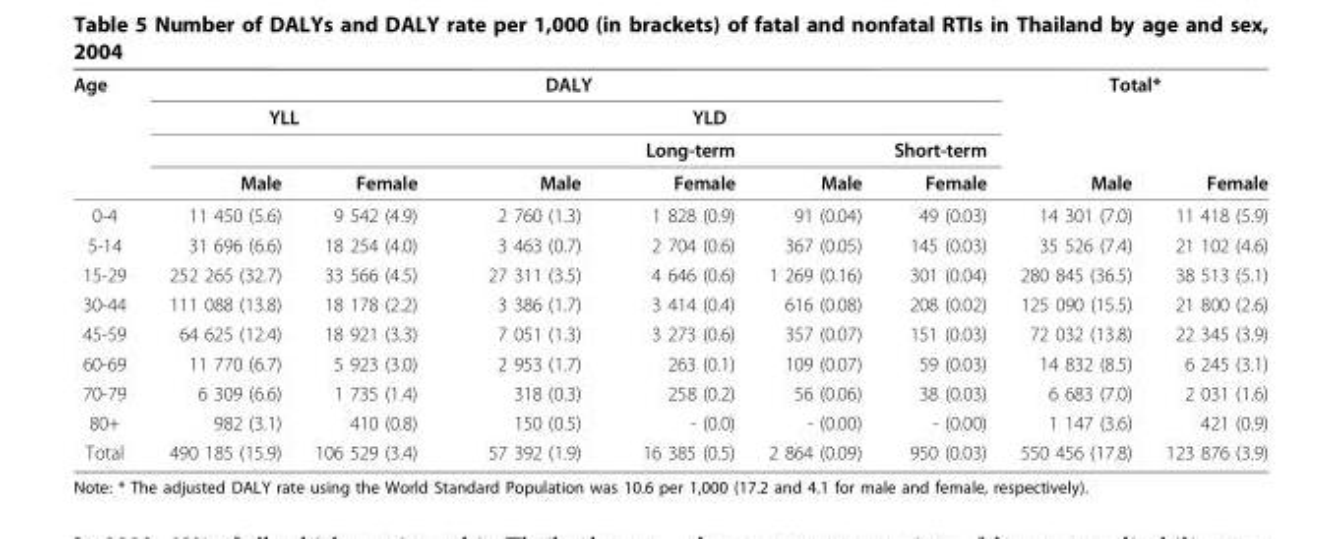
<table><thead><tr><td rowspan="4">Age</td><td colspan="6">DALY</td><td colspan="2">Total*</td></tr><tr><td colspan="2">YLL</td><td colspan="4">YLD</td><td rowspan="3">Male</td><td rowspan="3">Female</td></tr><tr><td rowspan="2">Male</td><td rowspan="2">Female</td><td colspan="2">Long-term</td><td colspan="2">Short-term</td></tr><tr><td>Male</td><td>Female</td><td>Male</td><td>Female</td></tr></thead><tbody><tr><td>0-4</td><td>11 450 (5.6)</td><td>9 542 (4.9)</td><td>2 760 (1.3)</td><td>1 828 (0.9)</td><td>91 (0.04)</td><td>49 (0.03)</td><td>14 301 (7.0)</td><td>11 418 (5.9)</td></tr><tr><td>5-14</td><td>31 696 (6.6)</td><td>18 254 (4.0)</td><td>3 463 (0.7)</td><td>2 704 (0.6)</td><td>367 (0.05)</td><td>145 (0.03)</td><td>35 526 (7.4)</td><td>21 102 (4.6)</td></tr><tr><td>15-29</td><td>252 265 (32.7)</td><td>33 566 (4.5)</td><td>27 311 (3.5)</td><td>4 646 (0.6)</td><td>1 269 (0.16)</td><td>301 (0.04)</td><td>280 845 (36.5)</td><td>38 513 (5.1)</td></tr><tr><td>30-44</td><td>111 088 (13.8)</td><td>18 178 (2.2)</td><td>3 386 (1.7)</td><td>3 414 (0.4)</td><td>616 (0.08)</td><td>208 (0.02)</td><td>125 090 (15.5)</td><td>21 800 (2.6)</td></tr><tr><td>45-59</td><td>64 625 (12.4)</td><td>18 921 (3.3)</td><td>7 051 (1.3)</td><td>3 273 (0.6)</td><td>357 (0.07)</td><td>151 (0.03)</td><td>72 032 (13.8)</td><td>22 345 (3.9)</td></tr><tr><td>60-69</td><td>11 770 (6.7)</td><td>5 923 (3.0)</td><td>2 953 (1.7)</td><td>263 (0.1)</td><td>109 (0.07)</td><td>59 (0.03)</td><td>14 832 (8.5)</td><td>6 245 (3.1)</td></tr><tr><td>70-79</td><td>6 309 (6.6)</td><td>1 735 (1.4)</td><td>318 (0.3)</td><td>258 (0.2)</td><td>56 (0.06)</td><td>38 (0.03)</td><td>6 683 (7.0)</td><td>2 031 (1.6)</td></tr><tr><td>80+</td><td>982 (3.1)</td><td>410 (0.8)</td><td>150 (0.5)</td><td>- (0.0)</td><td>- (0.00)</td><td>- (0.00)</td><td>1 147 (3.6)</td><td>421 (0.9)</td></tr><tr><td>Total</td><td>490 185 (15.9)</td><td>106 529 (3.4)</td><td>57 392 (1.9)</td><td>16 385 (0.5)</td><td>2 864 (0.09)</td><td>950 (0.03)</td><td>550 456 (17.8)</td><td>123 876 (3.9)</td></tr></tbody></table>